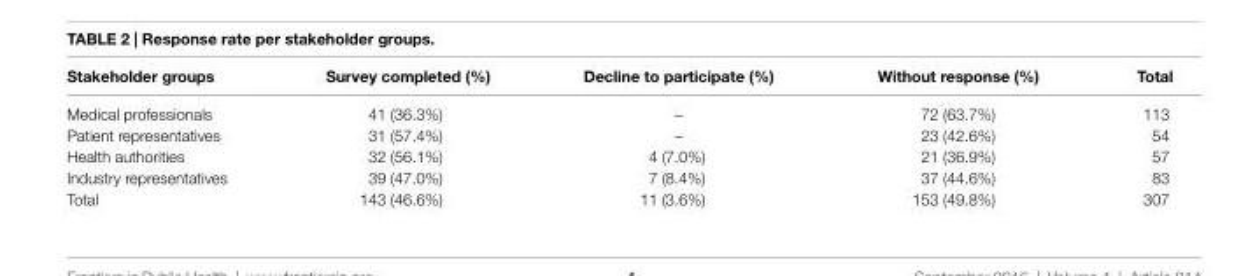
<table><thead><tr><td>stakeholder groups</td><td>survey completed (%)</td><td>Decline to participate (%)</td><td>Without response (%)</td><td>Total</td></tr></thead><tbody><tr><td>Medical professionals</td><td>41 (36.3%)</td><td>–</td><td>72 (63.7%)</td><td>113</td></tr><tr><td>Patient representatives</td><td>31 (57.4%)</td><td>–</td><td>23 (42.6%)</td><td>54</td></tr><tr><td>Health authorities</td><td>32 (56.1%)</td><td>4 (7.0%)</td><td>21 (36.9%)</td><td>57</td></tr><tr><td>Industry representatives</td><td>39 (47.0%)</td><td>7 (8.4%)</td><td>37 (44.6%)</td><td>83</td></tr><tr><td>Total</td><td>143 (46.6%)</td><td>11 (3.6%)</td><td>153 (49.8%)</td><td>307</td></tr></tbody></table>